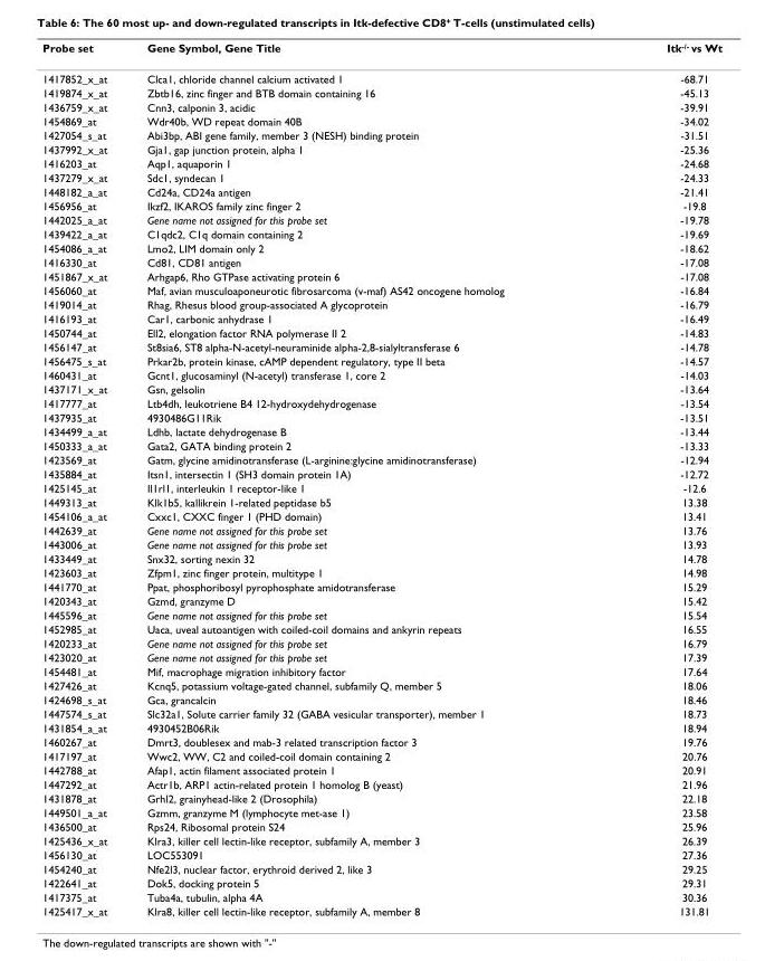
<table><thead><tr><td>Probe set</td><td>Gene Symbol, Gene Title</td><td>Itk<sup>-/-</sup> vs Wt</td></tr></thead><tbody><tr><td>1417852_x_at</td><td>Clca1, chloride channel calcium activated 1</td><td>-68.71</td></tr><tr><td>1419874_x_at</td><td>Zbtb16, zinc finger and BTB domain containing 16</td><td>-45.13</td></tr><tr><td>1436759_x_at</td><td>Cnn3, calponin 3, acidic</td><td>-39.91</td></tr><tr><td>1454869_at</td><td>Wdr40b, WD repeat domain 40B</td><td>-34.02</td></tr><tr><td>1427054_s_at</td><td>Abi3bp, ABI gene family, member 3 (NESH) binding protein</td><td>-31.51</td></tr><tr><td>1437992_x_at</td><td>Gja1, gap junction protein, alpha 1</td><td>-25.36</td></tr><tr><td>1416203_at</td><td>Aqp1, aquaporin 1</td><td>-24.68</td></tr><tr><td>1437279_x_at</td><td>Sdc1, syndecan 1</td><td>-24.33</td></tr><tr><td>1448182_a_at</td><td>Cd24a, CD24a antigen</td><td>-21.41</td></tr><tr><td>1456956_at</td><td>Ikzf2, IKAROS family zinc finger 2</td><td>-19.8</td></tr><tr><td>1442025_a_at</td><td>Gene name not assigned for this probe set</td><td>-19.78</td></tr><tr><td>1439422_a_at</td><td>C1qdc2, C1q domain containing 2</td><td>-19.69</td></tr><tr><td>1454086_a_at</td><td>Lmo2, LIM domain only 2</td><td>-18.62</td></tr><tr><td>1416330_at</td><td>Cd81, CD81 antigen</td><td>-17.08</td></tr><tr><td>1451867_x_at</td><td>Arhgap6, Rho GTPase activating protein 6</td><td>-17.08</td></tr><tr><td>1456060_at</td><td>Maf, avian musculoaponeurotic fibrosarcoma (v-maf) AS42 oncogene homolog</td><td>-16.84</td></tr><tr><td>1419014_at</td><td>Rhag, Rhesus blood group-associated A glycoprotein</td><td>-16.79</td></tr><tr><td>1416193_at</td><td>Car1, carbonic anhydrase 1</td><td>-16.49</td></tr><tr><td>1450744_at</td><td>Ell2, elongation factor RNA polymerase II 2</td><td>-14.83</td></tr><tr><td>1456147_at</td><td>St8sia6, ST8 alpha-N-acetyl-neuraminide alpha-2,8-sialyltransferase 6</td><td>-14.78</td></tr><tr><td>1456475_s_at</td><td>Prkar2b, protein kinase, cAMP dependent regulatory, type II beta</td><td>-14.57</td></tr><tr><td>1460431_at</td><td>Gcnt1, glucosaminyl (N-acetyl) transferase 1, core 2</td><td>-14.03</td></tr><tr><td>1437171_x_at</td><td>Gsn, gelsolin</td><td>-13.64</td></tr><tr><td>1417777_at</td><td>Ltb4dh, leukotriene B4 12-hydroxydehydrogenase</td><td>-13.54</td></tr><tr><td>1437935_at</td><td>4930486G11Rik</td><td>-13.51</td></tr><tr><td>1434499_a_at</td><td>Ldhb, lactate dehydrogenase B</td><td>-13.44</td></tr><tr><td>1450333_a_at</td><td>Gata2, GATA binding protein 2</td><td>-13.33</td></tr><tr><td>1423569_at</td><td>Gatm, glycine amidinotransferase (L-arginine:glycine amidinotransferase)</td><td>-12.94</td></tr><tr><td>1435884_at</td><td>Itsn1, intersectin 1 (SH3 domain protein 1A)</td><td>-12.72</td></tr><tr><td>1425145_at</td><td>Il1rl1, interleukin 1 receptor-like 1</td><td>-12.6</td></tr><tr><td>1449313_at</td><td>Klk1b5, kallikrein 1-related peptidase b5</td><td>13.38</td></tr><tr><td>1454106_a_at</td><td>Cxxc1, CXXC finger 1 (PHD domain)</td><td>13.41</td></tr><tr><td>1442639_at</td><td>Gene name not assigned for this probe set</td><td>13.76</td></tr><tr><td>1443006_at</td><td>Gene name not assigned for this probe set</td><td>13.93</td></tr><tr><td>1433449_at</td><td>Snx32, sorting nexin 32</td><td>14.78</td></tr><tr><td>1423603_at</td><td>Zfpm1, zinc finger protein, multitype 1</td><td>14.98</td></tr><tr><td>1441770_at</td><td>Ppat, phosphoribosyl pyrophosphate amidotransferase</td><td>15.29</td></tr><tr><td>1420343_at</td><td>Gzmd, granzyme D</td><td>15.42</td></tr><tr><td>1445596_at</td><td>Gene name not assigned for this probe set</td><td>15.54</td></tr><tr><td>1452985_at</td><td>Uaca, uveal autoantigen with coiled-coil domains and ankyrin repeats</td><td>16.55</td></tr><tr><td>1420233_at</td><td>Gene name not assigned for this probe set</td><td>16.79</td></tr><tr><td>1423020_at</td><td>Gene name not assigned for this probe set</td><td>17.39</td></tr><tr><td>1454481_at</td><td>Mif, macrophage migration inhibitory factor</td><td>17.64</td></tr><tr><td>1427426_at</td><td>Kcnq5, potassium voltage-gated channel, subfamily Q, member 5</td><td>18.06</td></tr><tr><td>1424698_s_at</td><td>Gca, grancalcin</td><td>18.46</td></tr><tr><td>1447574_s_at</td><td>Slc32a1, Solute carrier family 32 (GABA vesicular transporter), member 1</td><td>18.73</td></tr><tr><td>1431854_a_at</td><td>4930452B06Rik</td><td>18.94</td></tr><tr><td>1460267_at</td><td>Dmrt3, doublesex and mab-3 related transcription factor 3</td><td>19.76</td></tr><tr><td>1417197_at</td><td>Wwc2, WW, C2 and coiled-coil domain containing 2</td><td>20.76</td></tr><tr><td>1442788_at</td><td>Afap1, actin filament associated protein 1</td><td>20.91</td></tr><tr><td>1447292_at</td><td>Actr1b, ARP1 actin-related protein 1 homolog B (yeast)</td><td>21.96</td></tr><tr><td>1431878_at</td><td>Grhl2, grainyhead-like 2 (Drosophila)</td><td>22.18</td></tr><tr><td>1449501_a_at</td><td>Gzmm, granzyme M (lymphocyte met-ase 1)</td><td>23.58</td></tr><tr><td>1436500_at</td><td>Rps24, Ribosomal protein S24</td><td>25.96</td></tr><tr><td>1425436_x_at</td><td>Klra3, killer cell lectin-like receptor, subfamily A, member 3</td><td>26.39</td></tr><tr><td>1456130_at</td><td>LOC553091</td><td>27.36</td></tr><tr><td>1454240_at</td><td>Nfe2l3, nuclear factor, erythroid derived 2, like 3</td><td>29.25</td></tr><tr><td>1422641_at</td><td>Dok5, docking protein 5</td><td>29.31</td></tr><tr><td>1417375_at</td><td>Tuba4a, tubulin, alpha 4A</td><td>30.36</td></tr><tr><td>1425417_x_at</td><td>Klra8, killer cell lectin-like receptor, subfamily A, member 8</td><td>131.81</td></tr></tbody></table>